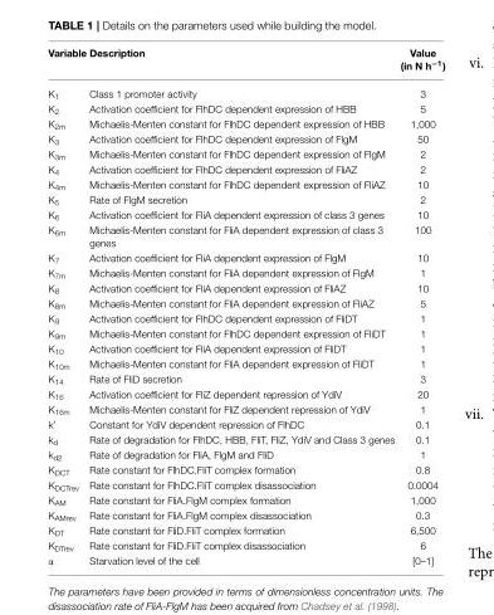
<table><thead><tr><td>Variable</td><td>Description</td><td>Value (in N h<sup>−1</sup>)</td></tr></thead><tbody><tr><td>K<sub>1</sub></td><td>Class 1 promoter activity</td><td>3</td></tr><tr><td>K<sub>2</sub></td><td>Activation coefficient for FlhDC dependent expression of HBB</td><td>5</td></tr><tr><td>K<sub>2m</sub></td><td>Michaelis-Menten constant for FlhDC dependent expression of HBB</td><td>1,000</td></tr><tr><td>K<sub>3</sub></td><td>Activation coefficient for FlhDC dependent expression of FlgM</td><td>50</td></tr><tr><td>K<sub>3m</sub></td><td>Michaelis-Menten constant for FlhDC dependent expression of FlgM</td><td>2</td></tr><tr><td>K<sub>4</sub></td><td>Activation coefficient for FlhDC dependent expression of FliAZ</td><td>2</td></tr><tr><td>K<sub>4m</sub></td><td>Michaelis-Menten constant for FlhDC dependent expression of FliAZ</td><td>10</td></tr><tr><td>K<sub>5</sub></td><td>Rate of FlgM secretion</td><td>2</td></tr><tr><td>K<sub>6</sub></td><td>Activation coefficient for FliA dependent expression of class 3 genes</td><td>10</td></tr><tr><td>K<sub>6m</sub></td><td>Michaelis-Menten constant for FliA dependent expression of class 3 genes</td><td>100</td></tr><tr><td>K<sub>7</sub></td><td>Activation coefficient for FliA dependent expression of FlgM</td><td>10</td></tr><tr><td>K<sub>7m</sub></td><td>Michaelis-Menten constant for FliA dependent expression of FlgM</td><td>1</td></tr><tr><td>K<sub>8</sub></td><td>Activation coefficient for FliA dependent expression of FliAZ</td><td>10</td></tr><tr><td>K<sub>8m</sub></td><td>Michaelis-Menten constant for FliA dependent expression of FliAZ</td><td>5</td></tr><tr><td>K<sub>9</sub></td><td>Activation coefficient for FlhDC dependent expression of FliDT</td><td>1</td></tr><tr><td>K<sub>9m</sub></td><td>Michaelis-Menten constant for FlhDC dependent expression of FliDT</td><td>1</td></tr><tr><td>K<sub>10</sub></td><td>Activation coefficient for FliA dependent expression of FliDT</td><td>1</td></tr><tr><td>K<sub>10m</sub></td><td>Michaelis-Menten constant for FliA dependent expression of FliDT</td><td>1</td></tr><tr><td>K<sub>14</sub></td><td>Rate of FliD secretion</td><td>3</td></tr><tr><td>K<sub>16</sub></td><td>Activation coefficient for FliZ dependent repression of YdiV</td><td>20</td></tr><tr><td>K<sub>16m</sub></td><td>Michaelis-Menten constant for FliZ dependent repression of YdiV</td><td>1</td></tr><tr><td>k′</td><td>Constant for YdiV dependent repression of FlhDC</td><td>0.1</td></tr><tr><td>k<sub>d</sub></td><td>Rate of degradation for FlhDC, HBB, FliT, FliZ, YdiV and Class 3 genes</td><td>0.1</td></tr><tr><td>k<sub>d2</sub></td><td>Rate of degradation for FliA, FlgM and FliD</td><td>1</td></tr><tr><td>K<sub>DCT</sub></td><td>Rate constant for FlhDC.FliT complex formation</td><td>0.8</td></tr><tr><td>K<sub>DCTrev</sub></td><td>Rate constant for FlhDC.FliT complex disassociation</td><td>0.0004</td></tr><tr><td>K<sub>AM</sub></td><td>Rate constant for FliA.FlgM complex formation</td><td>1,000</td></tr><tr><td>K<sub>AMrev</sub></td><td>Rate constant for FliA.FlgM complex disassociation</td><td>0.3</td></tr><tr><td>K<sub>DT</sub></td><td>Rate constant for FliD.FliT complex formation</td><td>6,500</td></tr><tr><td>K<sub>DTrev</sub></td><td>Rate constant for FliD.FliT complex disassociation</td><td>6</td></tr><tr><td>α</td><td>Starvation level of the cell</td><td>[0–1]</td></tr></tbody></table>